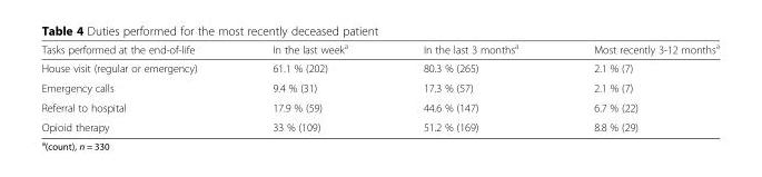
<table><thead><tr><td>Tasks performed at the end-of-life</td><td>In the last week<sup>a</sup></td><td>In the last 3 months<sup>a</sup></td><td>Most recently 3-12 months<sup>a</sup></td></tr></thead><tbody><tr><td>House visit (regular or emergency)</td><td>61.1 % (202)</td><td>80.3 % (265)</td><td>2.1 % (7)</td></tr><tr><td>Emergency calls</td><td>9.4 % (31)</td><td>17.3 % (57)</td><td>2.1 % (7)</td></tr><tr><td>Referral to hospital</td><td>17.9 % (59)</td><td>44.6 % (147)</td><td>6.7 % (22)</td></tr><tr><td>Opioid therapy</td><td>33 % (109)</td><td>51.2 % (169)</td><td>8.8 % (29)</td></tr></tbody></table>